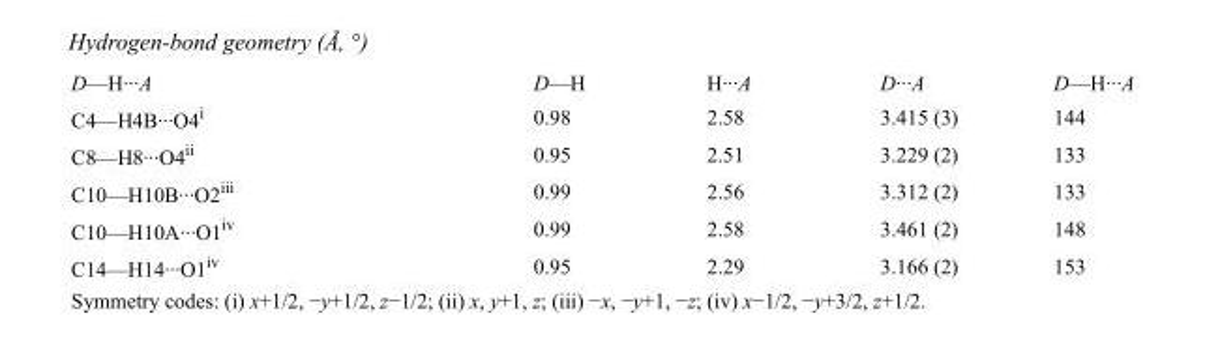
<table><tbody><tr><td>D—H···A</td><td>D—H</td><td>H···A</td><td>D···A</td><td>D—H···A</td></tr><tr><td>C4—H4B···O4<sup>i</sup></td><td>0.98</td><td>2.58</td><td>3.415 (3)</td><td>144</td></tr><tr><td>C8—H8···O4<sup>ii</sup></td><td>0.95</td><td>2.51</td><td>3.229 (2)</td><td>133</td></tr><tr><td>C10—H10B···O2<sup>iii</sup></td><td>0.99</td><td>2.56</td><td>3.312 (2)</td><td>133</td></tr><tr><td>C10—H10A···O1<sup>iv</sup></td><td>0.99</td><td>2.58</td><td>3.461 (2)</td><td>148</td></tr><tr><td>C14—H14···O1<sup>iv</sup></td><td>0.95</td><td>2.29</td><td>3.166 (2)</td><td>153</td></tr></tbody></table>